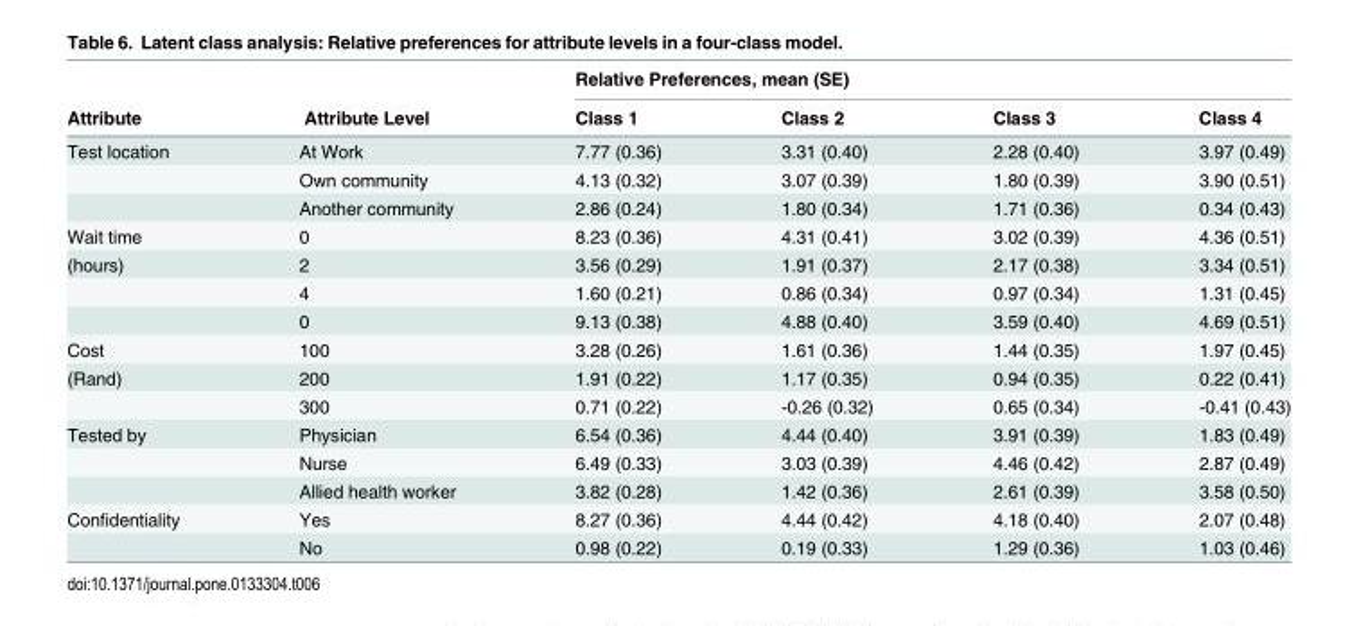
<table><thead><tr><td rowspan="2">Attribute</td><td rowspan="2">Attribute Level</td><td colspan="4">Relative Preferences, mean (SE)</td></tr><tr><td>Class 1</td><td>Class 2</td><td>Class 3</td><td>Class 4</td></tr></thead><tbody><tr><td rowspan="3">Test location</td><td>At Work</td><td>7.77 (0.36)</td><td>3.31 (0.40)</td><td>2.28 (0.40)</td><td>3.97 (0.49)</td></tr><tr><td>Own community</td><td>4.13 (0.32)</td><td>3.07 (0.39)</td><td>1.80 (0.39)</td><td>3.90 (0.51)</td></tr><tr><td>Another community</td><td>2.86 (0.24)</td><td>1.80 (0.34)</td><td>1.71 (0.36)</td><td>0.34 (0.43)</td></tr><tr><td>Wait time</td><td>0</td><td>8.23 (0.36)</td><td>4.31 (0.41)</td><td>3.02 (0.39)</td><td>4.36 (0.51)</td></tr><tr><td rowspan="3">(hours)</td><td>2</td><td>3.56 (0.29)</td><td>1.91 (0.37)</td><td>2.17 (0.38)</td><td>3.34 (0.51)</td></tr><tr><td>4</td><td>1.60 (0.21)</td><td>0.86 (0.34)</td><td>0.97 (0.34)</td><td>1.31 (0.45)</td></tr><tr><td>0</td><td>9.13 (0.38)</td><td>4.88 (0.40)</td><td>3.59 (0.40)</td><td>4.69 (0.51)</td></tr><tr><td>Cost</td><td>100</td><td>3.28 (0.26)</td><td>1.61 (0.36)</td><td>1.44 (0.35)</td><td>1.97 (0.45)</td></tr><tr><td rowspan="2">(Rand)</td><td>200</td><td>1.91 (0.22)</td><td>1.17 (0.35)</td><td>0.94 (0.35)</td><td>0.22 (0.41)</td></tr><tr><td>300</td><td>0.71 (0.22)</td><td>-0.26 (0.32)</td><td>0.65 (0.34)</td><td>-0.41 (0.43)</td></tr><tr><td rowspan="3">Tested by</td><td>Physician</td><td>6.54 (0.36)</td><td>4.44 (0.40)</td><td>3.91 (0.39)</td><td>1.83 (0.49)</td></tr><tr><td>Nurse</td><td>6.49 (0.33)</td><td>3.03 (0.39)</td><td>4.46 (0.42)</td><td>2.87 (0.49)</td></tr><tr><td>Allied health worker</td><td>3.82 (0.28)</td><td>1.42 (0.36)</td><td>2.61 (0.39)</td><td>3.58 (0.50)</td></tr><tr><td rowspan="2">Confidentiality</td><td>Yes</td><td>8.27 (0.36)</td><td>4.44 (0.42)</td><td>4.18 (0.40)</td><td>2.07 (0.48)</td></tr><tr><td>No</td><td>0.98 (0.22)</td><td>0.19 (0.33)</td><td>1.29 (0.36)</td><td>1.03 (0.46)</td></tr></tbody></table>